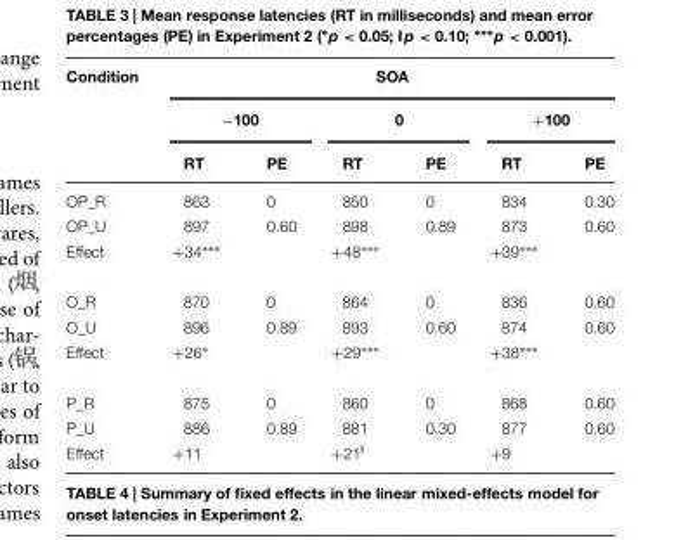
<table><thead><tr><td rowspan="3">Condition</td><td colspan="6">SOA</td></tr><tr><td colspan="2">−100</td><td colspan="2">0</td><td colspan="2">+100</td></tr><tr><td>RT</td><td>PE</td><td>RT</td><td>PE</td><td>RT</td><td>PE</td></tr></thead><tbody><tr><td>OP_R</td><td>863</td><td>0</td><td>850</td><td>0</td><td>834</td><td>0.30</td></tr><tr><td>OP_U</td><td>897</td><td>0.60</td><td>898</td><td>0.89</td><td>873</td><td>0.60</td></tr><tr><td>Effect</td><td>+34∗∗∗</td><td></td><td>+48∗∗∗</td><td></td><td>+39∗∗∗</td><td></td></tr><tr><td>O_R</td><td>870</td><td>0</td><td>864</td><td>0</td><td>836</td><td>0.60</td></tr><tr><td>O_U</td><td>896</td><td>0.89</td><td>893</td><td>0.60</td><td>874</td><td>0.60</td></tr><tr><td>Effect</td><td>+26∗</td><td></td><td>+29∗∗∗</td><td></td><td>+38∗∗∗</td><td></td></tr><tr><td>P_R</td><td>875</td><td>0</td><td>860</td><td>0</td><td>868</td><td>0.60</td></tr><tr><td>P_U</td><td>886</td><td>0.89</td><td>881</td><td>0.30</td><td>877</td><td>0.60</td></tr><tr><td>Effect</td><td>+11</td><td></td><td>+21<sup>ł</sup></td><td></td><td>+9</td><td></td></tr></tbody></table>